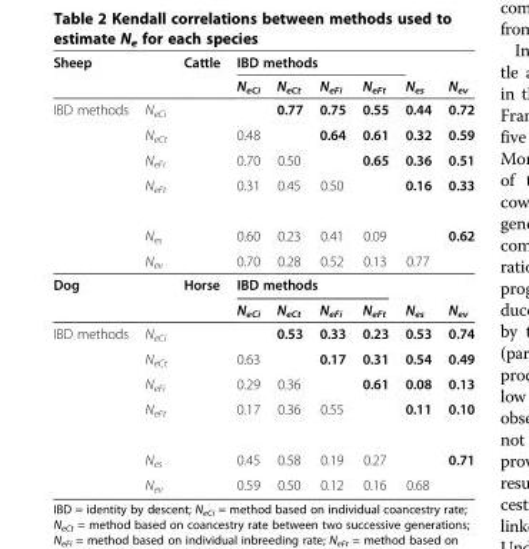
<table><thead><tr><td rowspan="2">Sheep</td><td rowspan="2"></td><td rowspan="2">Cattle</td><td colspan="4">IBD methods</td><td rowspan="2">Nes</td><td rowspan="2">Nev</td></tr><tr><td>NeCi</td><td>N<sub>eCt</sub></td><td>N<sub>eFi</sub></td><td>NeFt</td></tr></thead><tbody><tr><td rowspan="6">IBD methods</td><td>Ne<sub>Ci</sub></td><td></td><td></td><td>0.77</td><td>0.75</td><td>0.55</td><td>0.44</td><td>0.72</td></tr><tr><td>Ne<sub>Ct</sub></td><td></td><td>0.48</td><td></td><td>0.64</td><td>0.61</td><td>0.32</td><td>0.59</td></tr><tr><td>Ne<sub>Fi</sub></td><td></td><td>0.70</td><td>0.50</td><td></td><td>0.65</td><td>0.36</td><td>0.51</td></tr><tr><td>Ne<sub>Ft</sub></td><td></td><td>0.31</td><td>0.45</td><td>0.50</td><td></td><td>0.16</td><td>0.33</td></tr><tr><td>Ne<sub>s</sub></td><td></td><td>0.60</td><td>0.23</td><td>0.41</td><td>0.09</td><td></td><td>0.62</td></tr><tr><td>Ne<sub>v</sub></td><td></td><td>0.70</td><td>0.28</td><td>0.52</td><td>0.13</td><td>0.77</td><td></td></tr><tr><td rowspan="2">Dog</td><td></td><td>Horse</td><td colspan="4">IBD methods</td><td></td><td></td></tr><tr><td></td><td></td><td>N<sub>eCi</sub></td><td>N<sub>eCt</sub></td><td>N<sub>eFi</sub></td><td>N<sub>eFt</sub></td><td>N<sub>es</sub></td><td>N<sub>ev</sub></td></tr><tr><td rowspan="6">IBD methods</td><td>Ne<sub>Ci</sub></td><td></td><td></td><td>0.53</td><td>0.33</td><td>0.23</td><td>0.53</td><td>0.74</td></tr><tr><td>Ne<sub>Ct</sub></td><td></td><td>0.63</td><td></td><td>0.17</td><td>0.31</td><td>0.54</td><td>0.49</td></tr><tr><td>Ne<sub>Fi</sub></td><td></td><td>0.29</td><td>0.36</td><td></td><td>0.61</td><td>0.08</td><td>0.13</td></tr><tr><td>Ne<sub>Ft</sub></td><td></td><td>0.17</td><td>0.36</td><td>0.55</td><td></td><td>0.11</td><td>0.10</td></tr><tr><td>Ne<sub>s</sub></td><td></td><td>0.45</td><td>0.58</td><td>0.19</td><td>0.27</td><td></td><td>0.71</td></tr><tr><td>Ne<sub>v</sub></td><td></td><td>0.59</td><td>0.50</td><td>0.12</td><td>0.16</td><td>0.68</td><td></td></tr></tbody></table>